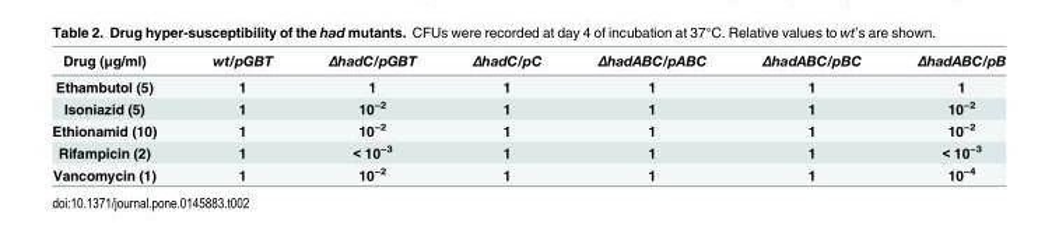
<table><thead><tr><td>Drug (μg/ml)</td><td>wt/pGBT</td><td>ΔhadC/pGBT</td><td>ΔhadC/pC</td><td>ΔhadABC/pABC</td><td>ΔhadABC/pBC</td><td>ΔhadABC/pB</td></tr></thead><tbody><tr><td>Ethambutol (5)</td><td>1</td><td>1</td><td>1</td><td>1</td><td>1</td><td>1</td></tr><tr><td>Isoniazid (5)</td><td>1</td><td>10<sup>−2</sup></td><td>1</td><td>1</td><td>1</td><td>10<sup>−2</sup></td></tr><tr><td>Ethionamid (10)</td><td>1</td><td>10<sup>−2</sup></td><td>1</td><td>1</td><td>1</td><td>10<sup>−2</sup></td></tr><tr><td>Rifampicin (2)</td><td>1</td><td>&lt; 10<sup>−3</sup></td><td>1</td><td>1</td><td>1</td><td>&lt; 10<sup>−3</sup></td></tr><tr><td>Vancomycin (1)</td><td>1</td><td>10<sup>−2</sup></td><td>1</td><td>1</td><td>1</td><td>10<sup>−4</sup></td></tr></tbody></table>